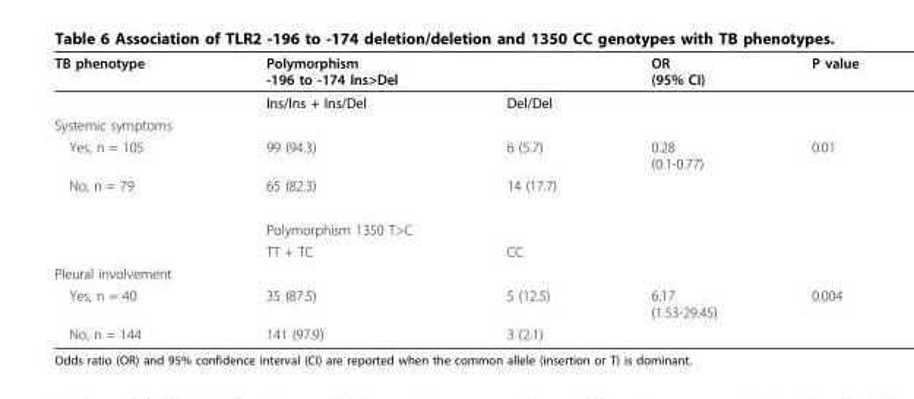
<table><thead><tr><td rowspan="2">TB phenotype</td><td rowspan="2">Polymorphism -196 to -174 Ins&gt;Del Ins/Ins + Ins/Del</td><td rowspan="2">Del/Del</td><td rowspan="2">OR (95% CI)</td><td rowspan="2">P value</td></tr><tr></tr></thead><tbody><tr><td colspan="5">Systemic symptoms</td></tr><tr><td>Yes, n = 105</td><td>99 (94.3)</td><td>6 (5.7)</td><td>0.28 (0.1-0.77)</td><td>0.01</td></tr><tr><td rowspan="3">No, n = 79</td><td>65 (82.3)</td><td>14 (17.7)</td><td></td><td></td></tr><tr><td>Polymorphism 1350 T&gt;C</td><td></td><td></td><td></td></tr><tr><td>TT + TC</td><td>CC</td><td></td><td></td></tr><tr><td colspan="5">Pleural involvement</td></tr><tr><td>Yes, n = 40</td><td>35 (87.5)</td><td>5 (12.5)</td><td>6.17 (1.53-29.45)</td><td>0.004</td></tr><tr><td>No, n = 144</td><td>141 (97.9)</td><td>3 (2.1)</td><td></td><td></td></tr></tbody></table>